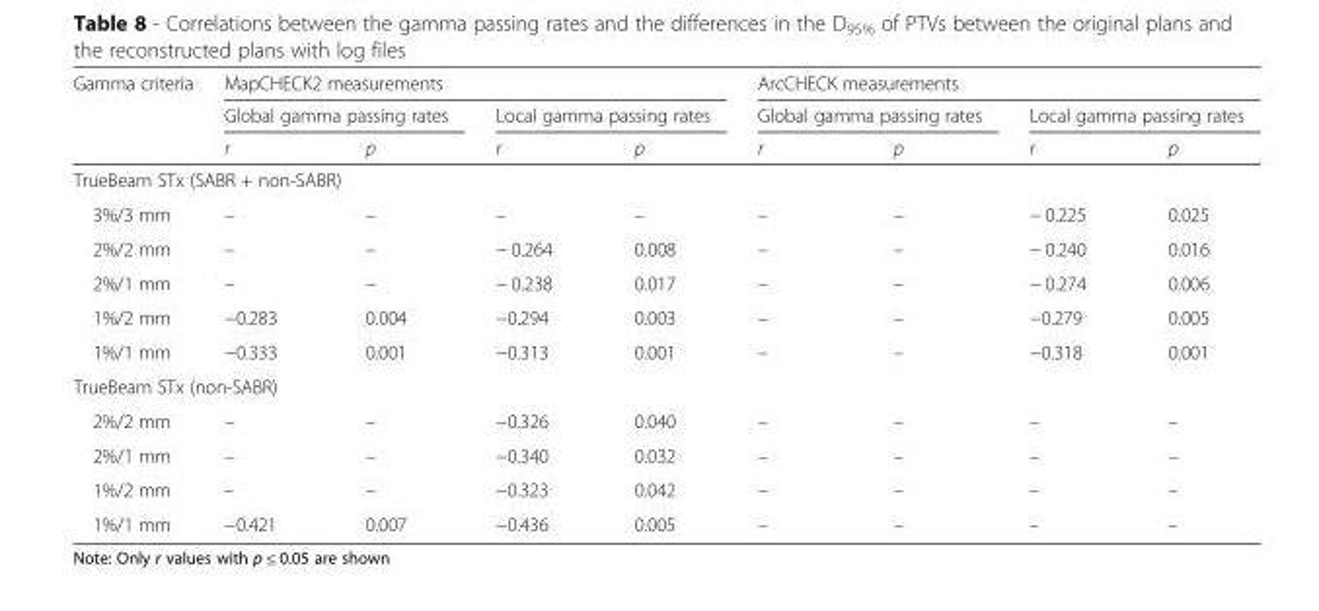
<table><thead><tr><td rowspan="3">Gamma criteria</td><td colspan="4">MapCHECK2 measurements</td><td colspan="4">ArcCHECK measurements</td></tr><tr><td colspan="2">Global gamma passing rates</td><td colspan="2">Local gamma passing rates</td><td colspan="2">Global gamma passing rates</td><td colspan="2">Local gamma passing rates</td></tr><tr><td>r</td><td>p</td><td>r</td><td>p</td><td>r</td><td>p</td><td>r</td><td>p</td></tr></thead><tbody><tr><td colspan="9">TrueBeam STx (SABR + non-SABR)</td></tr><tr><td>3%/3 mm</td><td>–</td><td>–</td><td>–</td><td>–</td><td>–</td><td>–</td><td>− 0.225</td><td>0.025</td></tr><tr><td>2%/2 mm</td><td>–</td><td>–</td><td>− 0.264</td><td>0.008</td><td>–</td><td>–</td><td>− 0.240</td><td>0.016</td></tr><tr><td>2%/1 mm</td><td>–</td><td>–</td><td>− 0.238</td><td>0.017</td><td>–</td><td>–</td><td>− 0.274</td><td>0.006</td></tr><tr><td>1%/2 mm</td><td>−0.283</td><td>0.004</td><td>−0.294</td><td>0.003</td><td>–</td><td>–</td><td>−0.279</td><td>0.005</td></tr><tr><td>1%/1 mm</td><td>−0.333</td><td>0.001</td><td>−0.313</td><td>0.001</td><td>–</td><td>–</td><td>−0.318</td><td>0.001</td></tr><tr><td colspan="9">TrueBeam STx (non-SABR)</td></tr><tr><td>2%/2 mm</td><td>–</td><td>–</td><td>−0.326</td><td>0.040</td><td>–</td><td>–</td><td>–</td><td>–</td></tr><tr><td>2%/1 mm</td><td>–</td><td>–</td><td>−0.340</td><td>0.032</td><td>–</td><td>–</td><td>–</td><td>–</td></tr><tr><td>1%/2 mm</td><td>–</td><td>–</td><td>−0.323</td><td>0.042</td><td>–</td><td>–</td><td>–</td><td>–</td></tr><tr><td>1%/1 mm</td><td>−0.421</td><td>0.007</td><td>−0.436</td><td>0.005</td><td>–</td><td>–</td><td>–</td><td>–</td></tr></tbody></table>